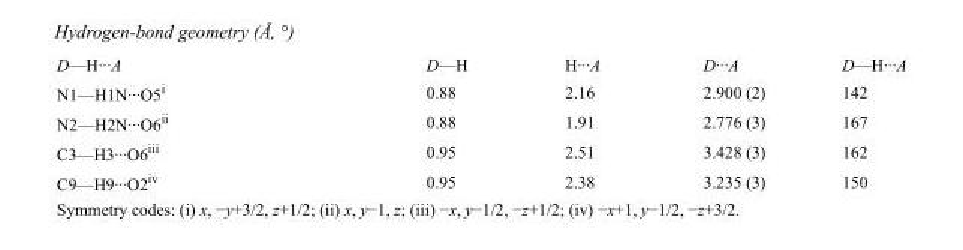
<table><tbody><tr><td>D—H···A</td><td>D—H</td><td>H···A</td><td>D···A</td><td>D—H···A</td></tr><tr><td>N1—H1N···O5<sup>i</sup></td><td>0.88</td><td>2.16</td><td>2.900 (2)</td><td>142</td></tr><tr><td>N2—H2N···O6<sup>ii</sup></td><td>0.88</td><td>1.91</td><td>2.776 (3)</td><td>167</td></tr><tr><td>C3—H3···O6<sup>iii</sup></td><td>0.95</td><td>2.51</td><td>3.428 (3)</td><td>162</td></tr><tr><td>C9—H9···O2<sup>iv</sup></td><td>0.95</td><td>2.38</td><td>3.235 (3)</td><td>150</td></tr></tbody></table>